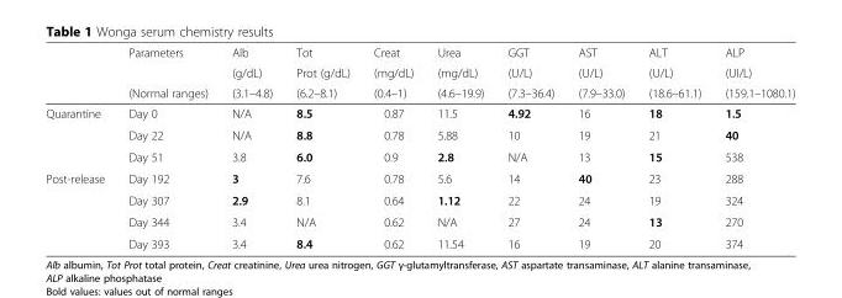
<table><thead><tr><td rowspan="3"></td><td rowspan="3">Parameters (Normal ranges)</td><td rowspan="3">Alb (g/dL) (3.1–4.8)</td><td rowspan="3">Tot Prot (g/dL) (6.2–8.1)</td><td rowspan="3">Creat (mg/dL) (0.4–1)</td><td rowspan="3">Urea (mg/dL) (4.6–19.9)</td><td rowspan="3">GGT (U/L) (7.3–36.4)</td><td rowspan="3">AST (U/L) (7.9–33.0)</td><td rowspan="3">ALT (U/L) (18.6–61.1)</td><td rowspan="3">ALP (UI/L) (159.1–1080.1)</td></tr><tr></tr><tr></tr></thead><tbody><tr><td rowspan="3">Quarantine</td><td>Day 0</td><td>N/A</td><td>8.5</td><td>0.87</td><td>11.5</td><td>4.92</td><td>16</td><td>18</td><td>1.5</td></tr><tr><td>Day 22</td><td>N/A</td><td>8.8</td><td>0.78</td><td>5.88</td><td>10</td><td>19</td><td>21</td><td>40</td></tr><tr><td>Day 51</td><td>3.8</td><td>6.0</td><td>0.9</td><td>2.8</td><td>N/A</td><td>13</td><td>15</td><td>538</td></tr><tr><td rowspan="4">Post-release</td><td>Day 192</td><td>3</td><td>7.6</td><td>0.78</td><td>5.6</td><td>14</td><td>40</td><td>23</td><td>288</td></tr><tr><td>Day 307</td><td>2.9</td><td>8.1</td><td>0.64</td><td>1.12</td><td>22</td><td>24</td><td>19</td><td>324</td></tr><tr><td>Day 344</td><td>3.4</td><td>N/A</td><td>0.62</td><td>N/A</td><td>27</td><td>24</td><td>13</td><td>270</td></tr><tr><td>Day 393</td><td>3.4</td><td>8.4</td><td>0.62</td><td>11.54</td><td>16</td><td>19</td><td>20</td><td>374</td></tr></tbody></table>